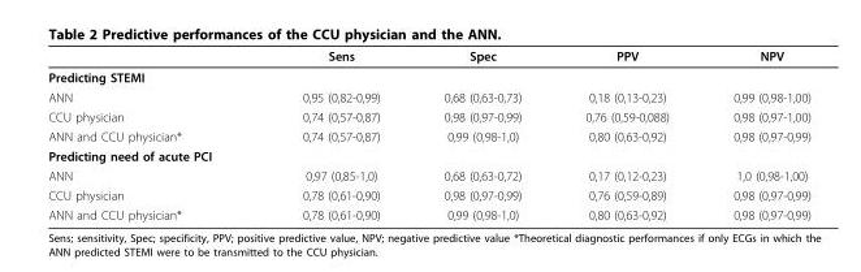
<table><thead><tr><td></td><td>Sens</td><td>Spec</td><td>PPV</td><td>NPV</td></tr></thead><tbody><tr><td colspan="5">Predicting STEMI</td></tr><tr><td>ANN</td><td>0,95 (0,82-0,99)</td><td>0,68 (0,63-0,73)</td><td>0,18 (0,13-0,23)</td><td>0,99 (0,98-1,00)</td></tr><tr><td>CCU physician</td><td>0,74 (0,57-0,87)</td><td>0,98 (0,97-0,99)</td><td>0,76 (0,59-0,088)</td><td>0,98 (0,97-1,00)</td></tr><tr><td>ANN and CCU physician*</td><td>0,74 (0,57-0,87)</td><td>0,99 (0,98-1,0)</td><td>0,80 (0,63-0,92)</td><td>0,98 (0,97-0,99)</td></tr><tr><td colspan="5">Predicting need of acute PCI</td></tr><tr><td>ANN</td><td>0,97 (0,85-1,0)</td><td>0,68 (0,63-0,72)</td><td>0,17 (0,12-0,23)</td><td>1,0 (0,98-1,00)</td></tr><tr><td>CCU physician</td><td>0,78 (0,61-0,90)</td><td>0,98 (0,97-0,99)</td><td>0,76 (0,59-0,89)</td><td>0,98 (0,97-0,99)</td></tr><tr><td>ANN and CCU physician*</td><td>0,78 (0,61-0,90)</td><td>0,99 (0,98-1,0)</td><td>0,80 (0,63-0,92)</td><td>0,98 (0,97-0,99)</td></tr></tbody></table>